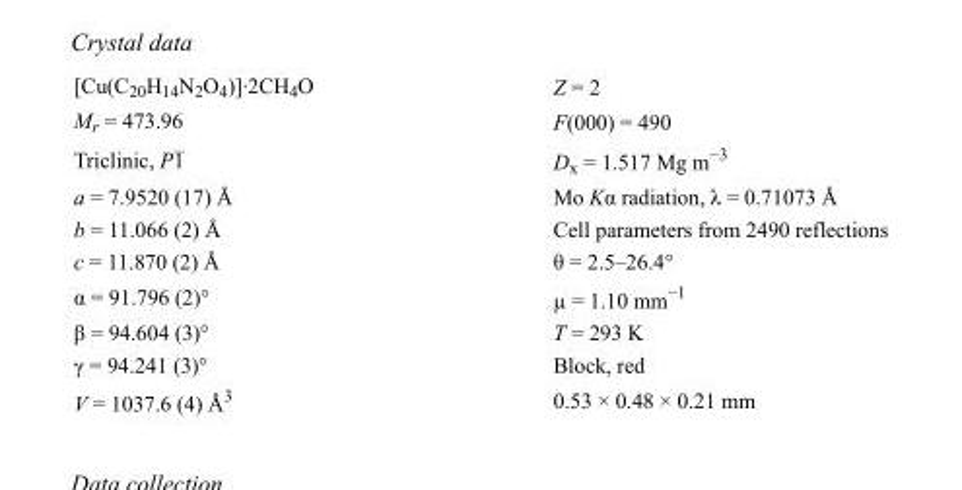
<table><tbody><tr><td>[Cu(C<sub>20</sub>H<sub>14</sub>N<sub>2</sub>O<sub>4</sub>)]·2CH<sub>4</sub>O</td><td>Z = 2</td></tr><tr><td>M<sub>r</sub> = 473.96</td><td>F(000) = 490</td></tr><tr><td>Triclinic, P1</td><td>D<sub>x</sub> = 1.517 Mg m<sup>−3</sup></td></tr><tr><td>a = 7.9520 (17) Å</td><td>Mo Kα radiation, λ = 0.71073 Å</td></tr><tr><td>b = 11.066 (2) Å</td><td>Cell parameters from 2490 reflections</td></tr><tr><td>c = 11.870 (2) Å</td><td>θ = 2.5–26.4°</td></tr><tr><td>α = 91.796 (2)°</td><td>µ = 1.10 mm<sup>−1</sup></td></tr><tr><td>β = 94.604 (3)°</td><td>T = 293 K</td></tr><tr><td>γ = 94.241 (3)°</td><td>Block, red</td></tr><tr><td>V = 1037.6 (4) Å<sup>3</sup></td><td>0.53 × 0.48 × 0.21 mm</td></tr></tbody></table>